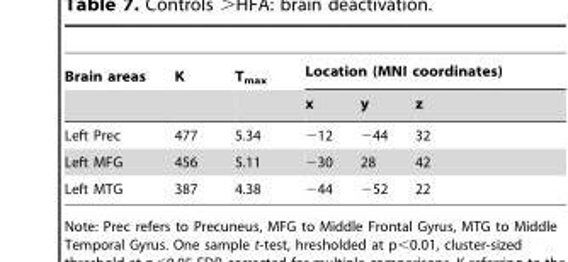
<table><thead><tr><td rowspan="2">Brain areas</td><td rowspan="2">K</td><td rowspan="2">T<sub>max</sub></td><td colspan="3">Location (MNI coordinates)</td></tr><tr><td>x</td><td>y</td><td>z</td></tr></thead><tbody><tr><td>Left Prec</td><td>477</td><td>5.34</td><td>−12</td><td>−44</td><td>32</td></tr><tr><td>Left MFG</td><td>456</td><td>5.11</td><td>−30</td><td>28</td><td>42</td></tr><tr><td>Left MTG</td><td>387</td><td>4.38</td><td>−44</td><td>−52</td><td>22</td></tr></tbody></table>